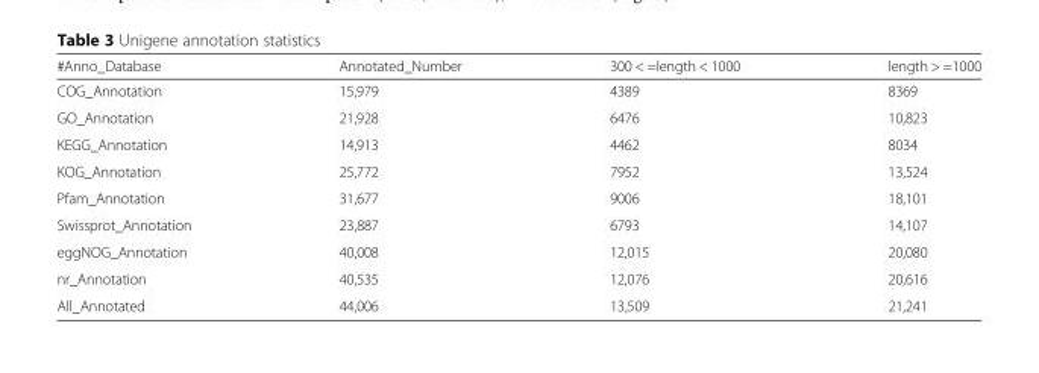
<table><thead><tr><td>#Anno_Database</td><td>Annotated_Number</td><td>300 &lt; =length &lt; 1000</td><td>length &gt; =1000</td></tr></thead><tbody><tr><td>COG_Annotation</td><td>15,979</td><td>4389</td><td>8369</td></tr><tr><td>GO_Annotation</td><td>21,928</td><td>6476</td><td>10,823</td></tr><tr><td>KEGG_Annotation</td><td>14,913</td><td>4462</td><td>8034</td></tr><tr><td>KOG_Annotation</td><td>25,772</td><td>7952</td><td>13,524</td></tr><tr><td>Pfam_Annotation</td><td>31,677</td><td>9006</td><td>18,101</td></tr><tr><td>Swissprot_Annotation</td><td>23,887</td><td>6793</td><td>14,107</td></tr><tr><td>eggNOG_Annotation</td><td>40,008</td><td>12,015</td><td>20,080</td></tr><tr><td>nr_Annotation</td><td>40,535</td><td>12,076</td><td>20,616</td></tr><tr><td>All_Annotated</td><td>44,006</td><td>13,509</td><td>21,241</td></tr></tbody></table>